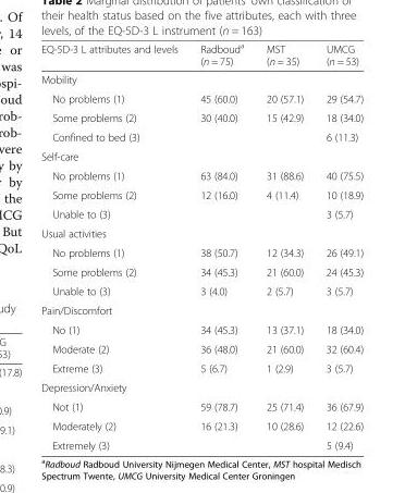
<table><thead><tr><td>EQ-5D-3 L attributes and levels</td><td>Radboud<sup>a</sup> (n = 75)</td><td>MST (n = 35)</td><td>UMCG (n = 53)</td></tr></thead><tbody><tr><td colspan="4">Mobility</td></tr><tr><td>No problems (1)</td><td>45 (60.0)</td><td>20 (57.1)</td><td>29 (54.7)</td></tr><tr><td>Some problems (2)</td><td>30 (40.0)</td><td>15 (42.9)</td><td>18 (34.0)</td></tr><tr><td>Confined to bed (3)</td><td></td><td></td><td>6 (11.3)</td></tr><tr><td colspan="4">Self-care</td></tr><tr><td>No problems (1)</td><td>63 (84.0)</td><td>31 (88.6)</td><td>40 (75.5)</td></tr><tr><td>Some problems (2)</td><td>12 (16.0)</td><td>4 (11.4)</td><td>10 (18.9)</td></tr><tr><td>Unable to (3)</td><td></td><td></td><td>3 (5.7)</td></tr><tr><td colspan="4">Usual activities</td></tr><tr><td>No problems (1)</td><td>38 (50.7)</td><td>12 (34.3)</td><td>26 (49.1)</td></tr><tr><td>Some problems (2)</td><td>34 (45.3)</td><td>21 (60.0)</td><td>24 (45.3)</td></tr><tr><td>Unable to (3)</td><td>3 (4.0)</td><td>2 (5.7)</td><td>3 (5.7)</td></tr><tr><td colspan="4">Pain/Discomfort</td></tr><tr><td>No (1)</td><td>34 (45.3)</td><td>13 (37.1)</td><td>18 (34.0)</td></tr><tr><td>Moderate (2)</td><td>36 (48.0)</td><td>21 (60.0)</td><td>32 (60.4)</td></tr><tr><td>Extreme (3)</td><td>5 (6.7)</td><td>1 (2.9)</td><td>3 (5.7)</td></tr><tr><td colspan="4">Depression/Anxiety</td></tr><tr><td>Not (1)</td><td>59 (78.7)</td><td>25 (71.4)</td><td>36 (67.9)</td></tr><tr><td>Moderately (2)</td><td>16 (21.3)</td><td>10 (28.6)</td><td>12 (22.6)</td></tr><tr><td>Extremely (3)</td><td></td><td></td><td>5 (9.4)</td></tr></tbody></table>